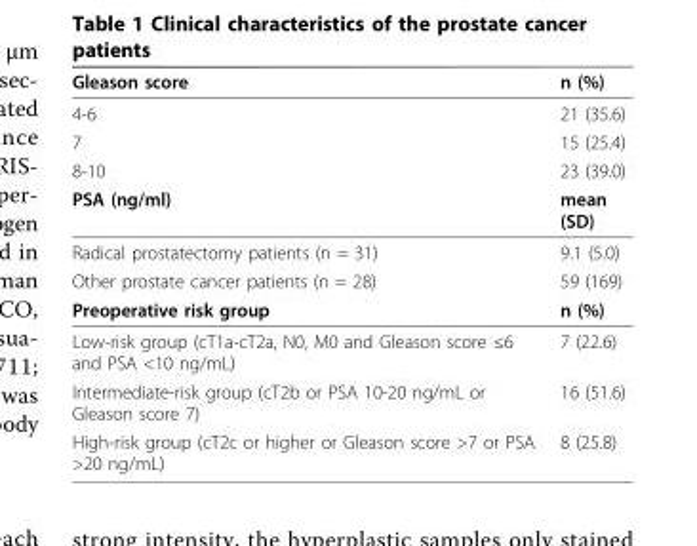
<table><thead><tr><td>Gleason score</td><td>n (%)</td></tr></thead><tbody><tr><td>4-6</td><td>21 (35.6)</td></tr><tr><td>7</td><td>15 (25.4)</td></tr><tr><td>8-10</td><td>23 (39.0)</td></tr><tr><td>PSA (ng/ml)</td><td>mean (SD)</td></tr><tr><td>Radical prostatectomy patients (n = 31)</td><td>9.1 (5.0)</td></tr><tr><td>Other prostate cancer patients (n = 28)</td><td>59 (169)</td></tr><tr><td>Preoperative risk group</td><td>n (%)</td></tr><tr><td>Low-risk group (cT1a-cT2a, N0, M0 and Gleason score ≤6 and PSA &lt;10 ng/mL)</td><td>7 (22.6)</td></tr><tr><td>Intermediate-risk group (cT2b or PSA 10-20 ng/mL or Gleason score 7)</td><td>16 (51.6)</td></tr><tr><td>High-risk group (cT2c or higher or Gleason score &gt;7 or PSA &gt;20 ng/mL)</td><td>8 (25.8)</td></tr></tbody></table>